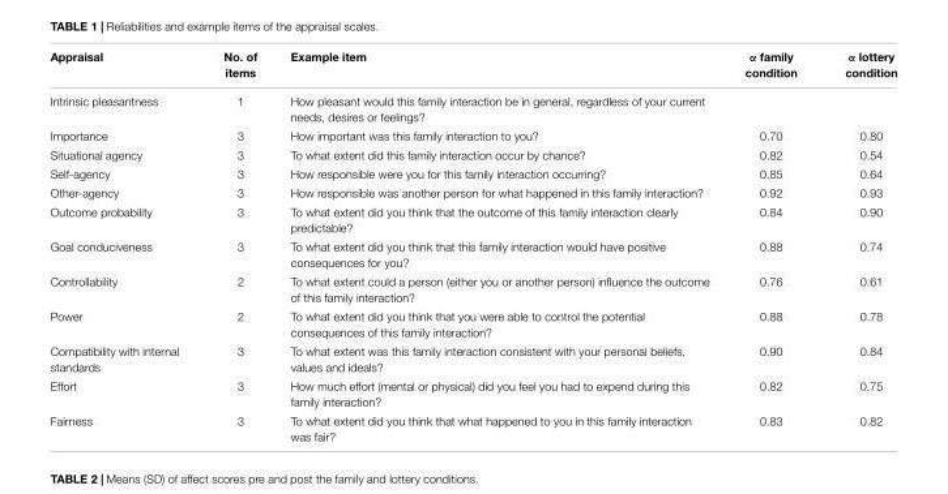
<table><thead><tr><td>Appraisal</td><td>No. of items</td><td>Example item</td><td>α family condition</td><td>α lottery condition</td></tr></thead><tbody><tr><td>Intrinsic pleasantness</td><td>1</td><td>How pleasant would this family interaction be in general, regardless of your current needs, desires or feelings?</td><td></td><td></td></tr><tr><td>Importance</td><td>3</td><td>How important was this family interaction to you?</td><td>0.70</td><td>0.80</td></tr><tr><td>Situational agency</td><td>3</td><td>To what extent did this family interaction occur by chance?</td><td>0.82</td><td>0.54</td></tr><tr><td>Self-agency</td><td>3</td><td>How responsible were you for this family interaction occurring?</td><td>0.85</td><td>0.64</td></tr><tr><td>Other-agency</td><td>3</td><td>How responsible was another person for what happened in this family interaction?</td><td>0.92</td><td>0.93</td></tr><tr><td>Outcome probability</td><td>3</td><td>To what extent did you think that the outcome of this family interaction clearly predictable?</td><td>0.84</td><td>0.90</td></tr><tr><td>Goal conduciveness</td><td>3</td><td>To what extent did you think that this family interaction would have positive consequences for you?</td><td>0.88</td><td>0.74</td></tr><tr><td>Controllability</td><td>2</td><td>To what extent could a person (either you or another person) influence the outcome of this family interaction?</td><td>0.76</td><td>0.61</td></tr><tr><td>Power</td><td>2</td><td>To what extent did you think that you were able to control the potential consequences of this family interaction?</td><td>0.88</td><td>0.78</td></tr><tr><td>Compatibility with internal standards</td><td>3</td><td>To what extent was this family interaction consistent with your personal beliefs, values and ideals?</td><td>0.90</td><td>0.84</td></tr><tr><td>Effort</td><td>3</td><td>How much effort (mental or physical) did you feel you had to expend during this family interaction?</td><td>0.82</td><td>0.75</td></tr><tr><td>Fairness</td><td>3</td><td>To what extent did you think that what happened to you in this family interaction was fair?</td><td>0.83</td><td>0.82</td></tr></tbody></table>